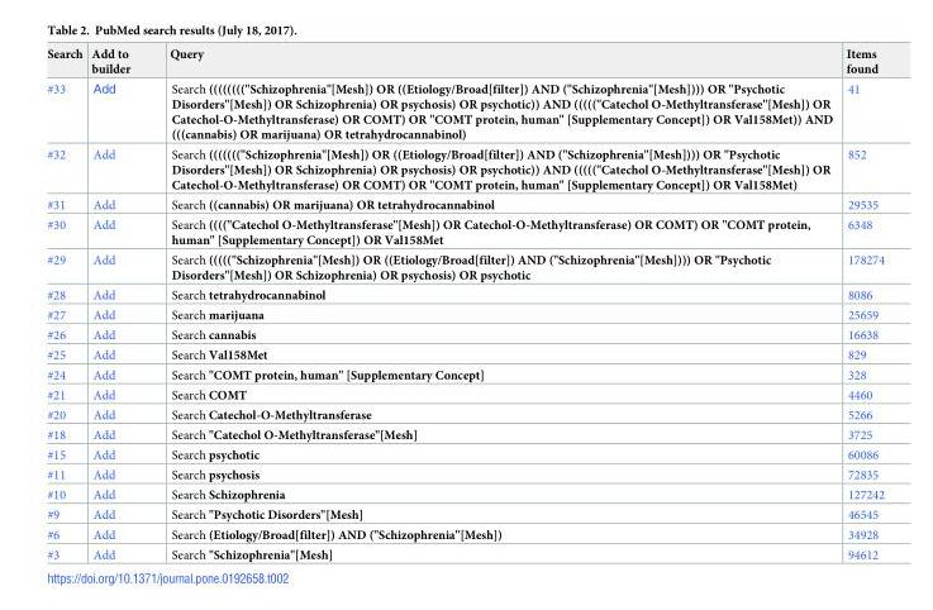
<table><thead><tr><td>Search</td><td>Add to builder</td><td>Query</td><td>Items found</td></tr></thead><tbody><tr><td>#33</td><td>Add</td><td>Search ((((((((&quot;Schizophrenia&quot;[Mesh]) OR ((Etiology/Broad[filter]) AND (&quot;Schizophrenia&quot;[Mesh]))) OR &quot;Psychotic Disorders&quot;[Mesh]) OR Schizophrenia) OR psychosis) OR psychotic)) AND (((((&quot;Catechol O-Methyltransferase&quot;[Mesh]) OR Catechol-O-Methyltransferase) OR COMT) OR &quot;COMT protein, human&quot; [Supplementary Concept]) OR Val158Met)) AND (((cannabis) OR marijuana) OR tetrahydrocannabinol)</td><td>41</td></tr><tr><td>#32</td><td>Add</td><td>Search (((((((&quot;Schizophrenia&quot;[Mesh]) OR ((Etiology/Broad[filter]) AND (&quot;Schizophrenia&quot;[Mesh]))) OR &quot;Psychotic Disorders&quot;[Mesh]) OR Schizophrenia) OR psychosis) OR psychotic)) AND (((((&quot;Catechol O-Methyltransferase&quot;[Mesh]) OR Catechol-O-Methyltransferase) OR COMT) OR &quot;COMT protein, human&quot; [Supplementary Concept]) OR Val158Met)</td><td>852</td></tr><tr><td>#31</td><td>Add</td><td>Search ((cannabis) OR marijuana) OR tetrahydrocannabinol</td><td>29535</td></tr><tr><td>#30</td><td>Add</td><td>Search ((((&quot;Catechol O-Methyltransferase&quot;[Mesh]) OR Catechol-O-Methyltransferase) OR COMT) OR &quot;COMT protein, human&quot; [Supplementary Concept]) OR Val158Met</td><td>6348</td></tr><tr><td>#29</td><td>Add</td><td>Search (((((&quot;Schizophrenia&quot;[Mesh]) OR ((Etiology/Broad[filter]) AND (&quot;Schizophrenia&quot;[Mesh]))) OR &quot;Psychotic Disorders&quot;[Mesh]) OR Schizophrenia) OR psychosis) OR psychotic</td><td>178274</td></tr><tr><td>#28</td><td>Add</td><td>Search tetrahydrocannabinol</td><td>8086</td></tr><tr><td>#27</td><td>Add</td><td>Search marijuana</td><td>25659</td></tr><tr><td>#26</td><td>Add</td><td>Search cannabis</td><td>16638</td></tr><tr><td>#25</td><td>Add</td><td>Search Val158Met</td><td>829</td></tr><tr><td>#24</td><td>Add</td><td>Search &quot;COMT protein, human&quot; [Supplementary Concept]</td><td>328</td></tr><tr><td>#21</td><td>Add</td><td>Search COMT</td><td>4460</td></tr><tr><td>#20</td><td>Add</td><td>Search Catechol-O-Methyltransferase</td><td>5266</td></tr><tr><td>#18</td><td>Add</td><td>Search &quot;Catechol O-Methyltransferase&quot;[Mesh]</td><td>3725</td></tr><tr><td>#15</td><td>Add</td><td>Search psychotic</td><td>60086</td></tr><tr><td>#11</td><td>Add</td><td>Search psychosis</td><td>72835</td></tr><tr><td>#10</td><td>Add</td><td>Search Schizophrenia</td><td>127242</td></tr><tr><td>#9</td><td>Add</td><td>Search &quot;Psychotic Disorders&quot;[Mesh]</td><td>46545</td></tr><tr><td>#6</td><td>Add</td><td>Search (Etiology/Broad[filter]) AND (&quot;Schizophrenia&quot;[Mesh])</td><td>34928</td></tr><tr><td>#3</td><td>Add</td><td>Search &quot;Schizophrenia&quot;[Mesh]</td><td>94612</td></tr></tbody></table>